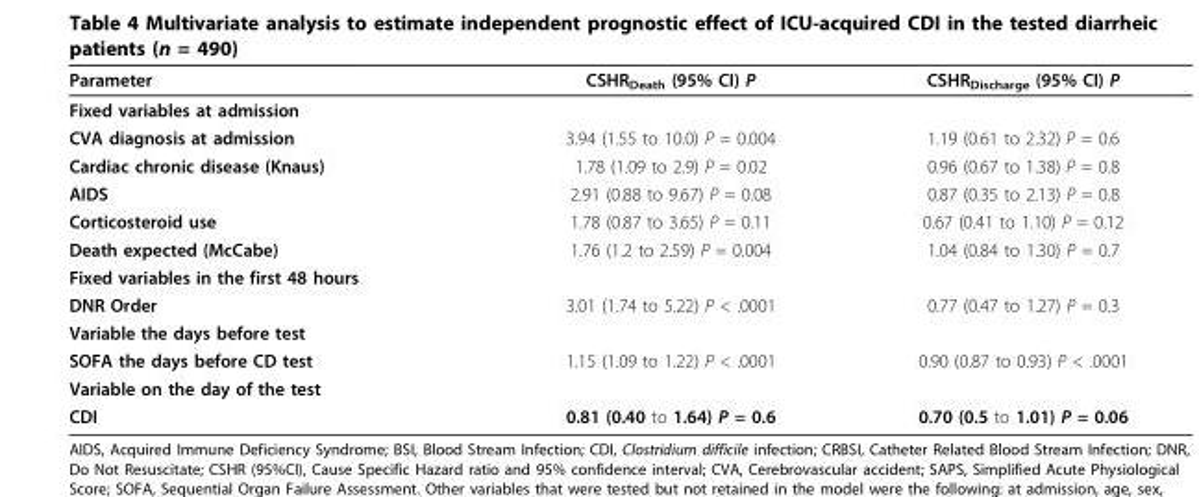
<table><thead><tr><td>Parameter</td><td>CSHR<sub>Death</sub> (95% CI) P</td><td>CSHR<sub>Discharge</sub> (95% CI) P</td></tr></thead><tbody><tr><td colspan="3">Fixed variables at admission</td></tr><tr><td>CVA diagnosis at admission</td><td>3.94 (1.55 to 10.0) P = 0.004</td><td>1.19 (0.61 to 2.32) P = 0.6</td></tr><tr><td>Cardiac chronic disease (Knaus)</td><td>1.78 (1.09 to 2.9) P = 0.02</td><td>0.96 (0.67 to 1.38) P = 0.8</td></tr><tr><td>AIDS</td><td>2.91 (0.88 to 9.67) P = 0.08</td><td>0.87 (0.35 to 2.13) P = 0.8</td></tr><tr><td>Corticosteroid use</td><td>1.78 (0.87 to 3.65) P = 0.11</td><td>0.67 (0.41 to 1.10) P = 0.12</td></tr><tr><td>Death expected (McCabe)</td><td>1.76 (1.2 to 2.59) P = 0.004</td><td>1.04 (0.84 to 1.30) P = 0.7</td></tr><tr><td colspan="3">Fixed variables in the first 48 hours</td></tr><tr><td>DNR Order</td><td>3.01 (1.74 to 5.22) P &lt; .0001</td><td>0.77 (0.47 to 1.27) P = 0.3</td></tr><tr><td colspan="3">Variable the days before test</td></tr><tr><td>SOFA the days before CD test</td><td>1.15 (1.09 to 1.22) P &lt; .0001</td><td>0.90 (0.87 to 0.93) P &lt; .0001</td></tr><tr><td colspan="3">Variable on the day of the test</td></tr><tr><td>CDI</td><td>0.81 (0.40 to 1.64) P = 0.6</td><td>0.70 (0.5 to 1.01) P = 0.06</td></tr></tbody></table>